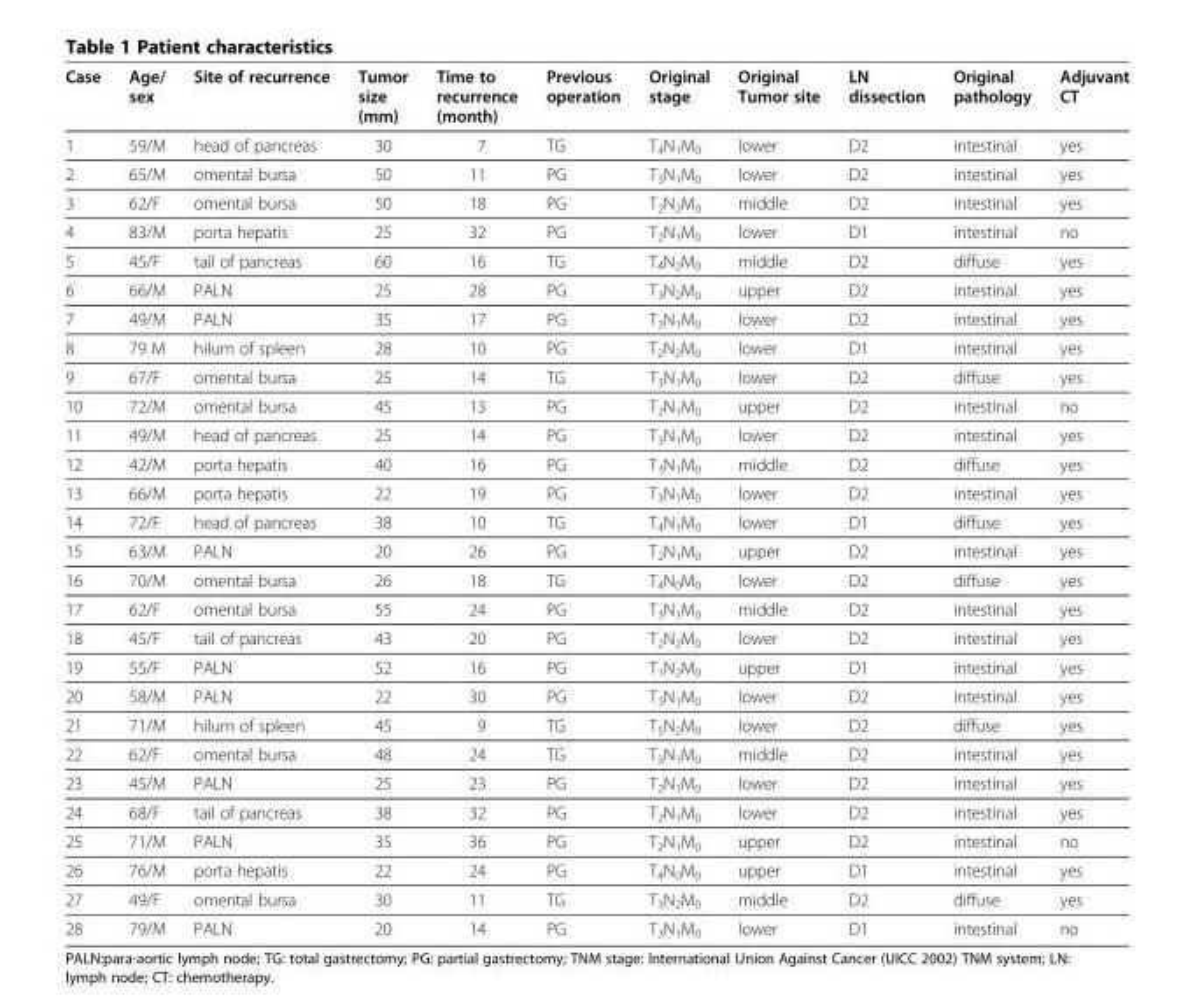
<table><thead><tr><td>Case</td><td>Age/ sex</td><td>Site of recurrence</td><td>Tumor size (mm)</td><td>Time to recurrence (month)</td><td>Previous operation</td><td>Original stage</td><td>Original Tumor site</td><td>LN dissection</td><td>Original pathology</td><td>Adjuvant CT</td></tr></thead><tbody><tr><td>1</td><td>59/M</td><td>head of pancreas</td><td>30</td><td>7</td><td>TG</td><td>T<sub>4</sub>N<sub>1</sub>M<sub>0</sub></td><td>lower</td><td>D2</td><td>intestinal</td><td>yes</td></tr><tr><td>2</td><td>65/M</td><td>omental bursa</td><td>50</td><td>11</td><td>PG</td><td>T<sub>3</sub>N<sub>1</sub>M<sub>0</sub></td><td>lower</td><td>D2</td><td>intestinal</td><td>yes</td></tr><tr><td>3</td><td>62/F</td><td>omental bursa</td><td>50</td><td>18</td><td>PG</td><td>T<sub>2</sub>N<sub>2</sub>M<sub>0</sub></td><td>middle</td><td>D2</td><td>intestinal</td><td>yes</td></tr><tr><td>4</td><td>83/M</td><td>porta hepatis</td><td>25</td><td>32</td><td>PG</td><td>T<sub>2</sub>N<sub>1</sub>M<sub>0</sub></td><td>lower</td><td>D1</td><td>intestinal</td><td>no</td></tr><tr><td>5</td><td>45/F</td><td>tail of pancreas</td><td>60</td><td>16</td><td>TG</td><td>T<sub>4</sub>N<sub>2</sub>M<sub>0</sub></td><td>middle</td><td>D2</td><td>diffuse</td><td>yes</td></tr><tr><td>6</td><td>66/M</td><td>PALN</td><td>25</td><td>28</td><td>PG</td><td>T<sub>3</sub>N<sub>2</sub>M<sub>0</sub></td><td>upper</td><td>D2</td><td>intestinal</td><td>yes</td></tr><tr><td>7</td><td>49/M</td><td>PALN</td><td>35</td><td>17</td><td>PG</td><td>T<sub>3</sub>N<sub>1</sub>M<sub>0</sub></td><td>lower</td><td>D2</td><td>intestinal</td><td>yes</td></tr><tr><td>8</td><td>79 M</td><td>hilum of spleen</td><td>28</td><td>10</td><td>PG</td><td>T<sub>2</sub>N<sub>2</sub>M<sub>0</sub></td><td>lower</td><td>D1</td><td>intestinal</td><td>yes</td></tr><tr><td>9</td><td>67/F</td><td>omental bursa</td><td>25</td><td>14</td><td>TG</td><td>T<sub>3</sub>N<sub>1</sub>M<sub>0</sub></td><td>lower</td><td>D2</td><td>diffuse</td><td>yes</td></tr><tr><td>10</td><td>72/M</td><td>omental bursa</td><td>45</td><td>13</td><td>PG</td><td>T<sub>2</sub>N<sub>1</sub>M<sub>0</sub></td><td>upper</td><td>D2</td><td>intestinal</td><td>no</td></tr><tr><td>11</td><td>49/M</td><td>head of pancreas</td><td>25</td><td>14</td><td>PG</td><td>T<sub>3</sub>N<sub>1</sub>M<sub>0</sub></td><td>lower</td><td>D2</td><td>intestinal</td><td>yes</td></tr><tr><td>12</td><td>42/M</td><td>porta hepatis</td><td>40</td><td>16</td><td>PG</td><td>T<sub>3</sub>N<sub>1</sub>M<sub>0</sub></td><td>middle</td><td>D2</td><td>diffuse</td><td>yes</td></tr><tr><td>13</td><td>66/M</td><td>porta hepatis</td><td>22</td><td>19</td><td>PG</td><td>T<sub>3</sub>N<sub>1</sub>M<sub>0</sub></td><td>lower</td><td>D2</td><td>intestinal</td><td>yes</td></tr><tr><td>14</td><td>72/F</td><td>head of pancreas</td><td>38</td><td>10</td><td>TG</td><td>T<sub>4</sub>N<sub>1</sub>M<sub>0</sub></td><td>lower</td><td>D1</td><td>diffuse</td><td>yes</td></tr><tr><td>15</td><td>63/M</td><td>PALN</td><td>20</td><td>26</td><td>PG</td><td>T<sub>2</sub>N<sub>1</sub>M<sub>0</sub></td><td>upper</td><td>D2</td><td>intestinal</td><td>yes</td></tr><tr><td>16</td><td>70/M</td><td>omental bursa</td><td>26</td><td>18</td><td>TG</td><td>T<sub>4</sub>N<sub>0</sub>M<sub>0</sub></td><td>lower</td><td>D2</td><td>diffuse</td><td>yes</td></tr><tr><td>17</td><td>62/F</td><td>omental bursa</td><td>55</td><td>24</td><td>PG</td><td>T<sub>3</sub>N<sub>1</sub>M<sub>0</sub></td><td>middle</td><td>D2</td><td>intestinal</td><td>yes</td></tr><tr><td>18</td><td>45/F</td><td>tail of pancreas</td><td>43</td><td>20</td><td>PG</td><td>T<sub>2</sub>N<sub>2</sub>M<sub>0</sub></td><td>lower</td><td>D2</td><td>intestinal</td><td>yes</td></tr><tr><td>19</td><td>55/F</td><td>PALN</td><td>52</td><td>16</td><td>PG</td><td>T<sub>1</sub>N<sub>2</sub>M<sub>0</sub></td><td>upper</td><td>D1</td><td>intestinal</td><td>yes</td></tr><tr><td>20</td><td>58/M</td><td>PALN</td><td>22</td><td>30</td><td>PG</td><td>T<sub>3</sub>N<sub>1</sub>M<sub>0</sub></td><td>lower</td><td>D2</td><td>intestinal</td><td>yes</td></tr><tr><td>21</td><td>71/M</td><td>hilum of spleen</td><td>45</td><td>9</td><td>TG</td><td>T<sub>$</sub>N<sub>2</sub>M<sub>0</sub></td><td>lower</td><td>D2</td><td>diffuse</td><td>yes</td></tr><tr><td>22</td><td>62/F</td><td>omental bursa</td><td>48</td><td>24</td><td>TG</td><td>T<sub>3</sub>N<sub>1</sub>M<sub>0</sub></td><td>middle</td><td>D2</td><td>intestinal</td><td>yes</td></tr><tr><td>23</td><td>45/M</td><td>PALN</td><td>25</td><td>23</td><td>PG</td><td>T<sub>2</sub>N<sub>1</sub>M<sub>0</sub></td><td>lower</td><td>D2</td><td>intestinal</td><td>yes</td></tr><tr><td>24</td><td>68/F</td><td>tail of pancreas</td><td>38</td><td>32</td><td>PG</td><td>T<sub>2</sub>N<sub>1</sub>M<sub>0</sub></td><td>lower</td><td>D2</td><td>intestinal</td><td>yes</td></tr><tr><td>25</td><td>71/M</td><td>PALN</td><td>35</td><td>36</td><td>PG</td><td>T<sub>2</sub>N<sub>1</sub>M<sub>0</sub></td><td>upper</td><td>D2</td><td>intestinal</td><td>no</td></tr><tr><td>26</td><td>76/M</td><td>porta hepatis</td><td>22</td><td>24</td><td>PG</td><td>T<sub>4</sub>N<sub>0</sub>M<sub>0</sub></td><td>upper</td><td>D1</td><td>intestinal</td><td>yes</td></tr><tr><td>27</td><td>49/F</td><td>omental bursa</td><td>30</td><td>11</td><td>TG</td><td>T<sub>3</sub>N<sub>2</sub>M<sub>0</sub></td><td>middle</td><td>D2</td><td>diffuse</td><td>yes</td></tr><tr><td>28</td><td>79/M</td><td>PALN</td><td>20</td><td>14</td><td>PG</td><td>T<sub>3</sub>N<sub>1</sub>M<sub>0</sub></td><td>lower</td><td>D1</td><td>intestinal</td><td>no</td></tr></tbody></table>